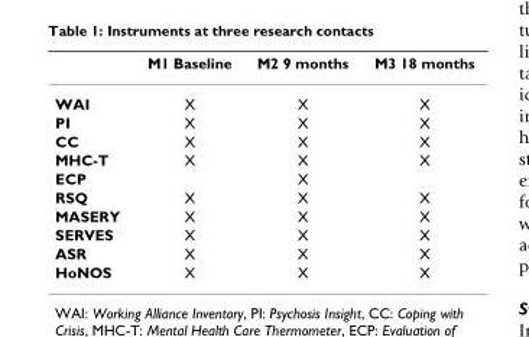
<table><thead><tr><td></td><td>M1 Baseline</td><td>M2 9 months</td><td>M3 18 months</td></tr></thead><tbody><tr><td>WAI</td><td>X</td><td>X</td><td>X</td></tr><tr><td>PI</td><td>X</td><td>X</td><td>X</td></tr><tr><td>CC</td><td>X</td><td>X</td><td>X</td></tr><tr><td>MHC-T</td><td>X</td><td>X</td><td>X</td></tr><tr><td>ECP</td><td></td><td>X</td><td></td></tr><tr><td>RSQ</td><td>X</td><td>X</td><td>X</td></tr><tr><td>MASERY</td><td>X</td><td>X</td><td>X</td></tr><tr><td>SERVES</td><td>X</td><td>X</td><td>X</td></tr><tr><td>ASR</td><td>X</td><td>X</td><td>X</td></tr><tr><td>HoNOS</td><td>X</td><td>X</td><td>X</td></tr></tbody></table>